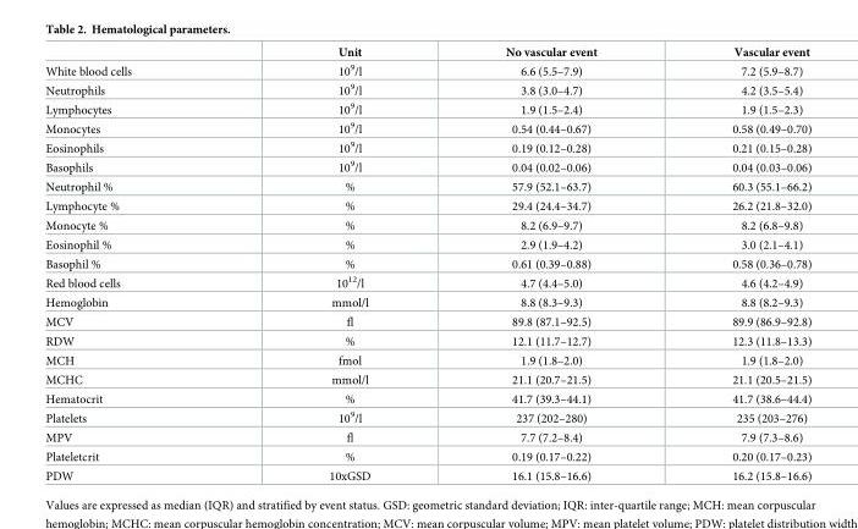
<table><thead><tr><td></td><td>Unit</td><td>No vascular event</td><td>Vascular event</td></tr></thead><tbody><tr><td>White blood cells</td><td>10<sup>9</sup>/l</td><td>6.6 (5.5–7.9)</td><td>7.2 (5.9–8.7)</td></tr><tr><td>Neutrophils</td><td>10<sup>9</sup>/l</td><td>3.8 (3.0–4.7)</td><td>4.2 (3.5–5.4)</td></tr><tr><td>Lymphocytes</td><td>10<sup>9</sup>/l</td><td>1.9 (1.5–2.4)</td><td>1.9 (1.5–2.3)</td></tr><tr><td>Monocytes</td><td>10<sup>9</sup>/l</td><td>0.54 (0.44–0.67)</td><td>0.58 (0.49–0.70)</td></tr><tr><td>Eosinophils</td><td>10<sup>9</sup>/l</td><td>0.19 (0.12–0.28)</td><td>0.21 (0.15–0.28)</td></tr><tr><td>Basophils</td><td>10<sup>9</sup>/l</td><td>0.04 (0.02–0.06)</td><td>0.04 (0.03–0.06)</td></tr><tr><td>Neutrophil %</td><td>%</td><td>57.9 (52.1–63.7)</td><td>60.3 (55.1–66.2)</td></tr><tr><td>Lymphocyte %</td><td>%</td><td>29.4 (24.4–34.7)</td><td>26.2 (21.8–32.0)</td></tr><tr><td>Monocyte %</td><td>%</td><td>8.2 (6.9–9.7)</td><td>8.2 (6.8–9.8)</td></tr><tr><td>Eosinophil %</td><td>%</td><td>2.9 (1.9–4.2)</td><td>3.0 (2.1–4.1)</td></tr><tr><td>Basophil %</td><td>%</td><td>0.61 (0.39–0.88)</td><td>0.58 (0.36–0.78)</td></tr><tr><td>Red blood cells</td><td>10<sup>12</sup>/l</td><td>4.7 (4.4–5.0)</td><td>4.6 (4.2–4.9)</td></tr><tr><td>Hemoglobin</td><td>mmol/l</td><td>8.8 (8.3–9.3)</td><td>8.8 (8.2–9.3)</td></tr><tr><td>MCV</td><td>fl</td><td>89.8 (87.1–92.5)</td><td>89.9 (86.9–92.8)</td></tr><tr><td>RDW</td><td>%</td><td>12.1 (11.7–12.7)</td><td>12.3 (11.8–13.3)</td></tr><tr><td>MCH</td><td>fmol</td><td>1.9 (1.8–2.0)</td><td>1.9 (1.8–2.0)</td></tr><tr><td>MCHC</td><td>mmol/l</td><td>21.1 (20.7–21.5)</td><td>21.1 (20.5–21.5)</td></tr><tr><td>Hematocrit</td><td>%</td><td>41.7 (39.3–44.1)</td><td>41.7 (38.6–44.4)</td></tr><tr><td>Platelets</td><td>10<sup>9</sup>/l</td><td>237 (202–280)</td><td>235 (203–276)</td></tr><tr><td>MPV</td><td>fl</td><td>7.7 (7.2–8.4)</td><td>7.9 (7.3–8.6)</td></tr><tr><td>Plateletcrit</td><td>%</td><td>0.19 (0.17–0.22)</td><td>0.20 (0.17–0.23)</td></tr><tr><td>PDW</td><td>10xGSD</td><td>16.1 (15.8–16.6)</td><td>16.2 (15.8–16.6)</td></tr></tbody></table>